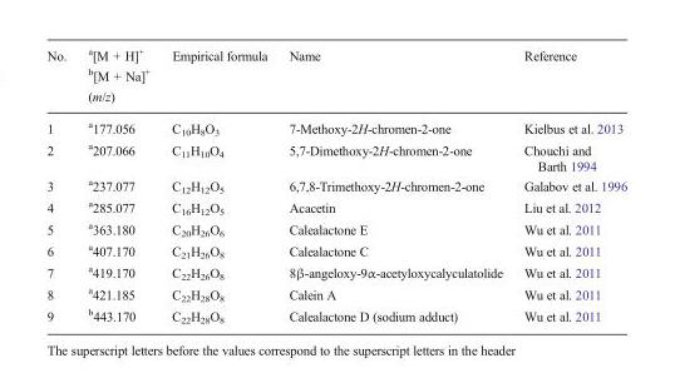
<table><thead><tr><td>No.</td><td><sup>a</sup>[M + H]<sup>+ b</sup>[M + Na]<sup>+</sup> (m/z)</td><td>Empirical formula</td><td>Name</td><td>Reference</td></tr></thead><tbody><tr><td>1</td><td><sup>a</sup>177.056</td><td>C<sub>10</sub>H<sub>8</sub>O<sub>3</sub></td><td>7-Methoxy-2H-chromen-2-one</td><td>Kielbus et al. 2013</td></tr><tr><td>2</td><td><sup>a</sup>207.066</td><td>C<sub>11</sub>H<sub>10</sub>O<sub>4</sub></td><td>5,7-Dimethoxy-2H-chromen-2-one</td><td>Chouchi and Barth 1994</td></tr><tr><td>3</td><td><sup>a</sup>237.077</td><td>C<sub>12</sub>H<sub>12</sub>O<sub>5</sub></td><td>6,7,8-Trimethoxy-2H-chromen-2-one</td><td>Galabov et al. 1996</td></tr><tr><td>4</td><td><sup>a</sup>285.077</td><td>C<sub>16</sub>H<sub>12</sub>O<sub>5</sub></td><td>Acacetin</td><td>Liu et al. 2012</td></tr><tr><td>5</td><td><sup>a</sup>363.180</td><td>C<sub>20</sub>H<sub>26</sub>O<sub>6</sub></td><td>Calealactone E</td><td>Wu et al. 2011</td></tr><tr><td>6</td><td><sup>a</sup>407.170</td><td>C<sub>21</sub>H<sub>26</sub>O<sub>8</sub></td><td>Calealactone C</td><td>Wu et al. 2011</td></tr><tr><td>7</td><td><sup>a</sup>419.170</td><td>C<sub>22</sub>H<sub>26</sub>O<sub>8</sub></td><td>8β-angeloxy-9α-acetyloxycalyculatolide</td><td>Wu et al. 2011</td></tr><tr><td>8</td><td><sup>a</sup>421.185</td><td>C<sub>22</sub>H<sub>28</sub>O<sub>8</sub></td><td>Calein A</td><td>Wu et al. 2011</td></tr><tr><td>9</td><td><sup>b</sup>443.170</td><td>C<sub>22</sub>H<sub>28</sub>O<sub>8</sub></td><td>Calealactone D (sodium adduct)</td><td>Wu et al. 2011</td></tr></tbody></table>